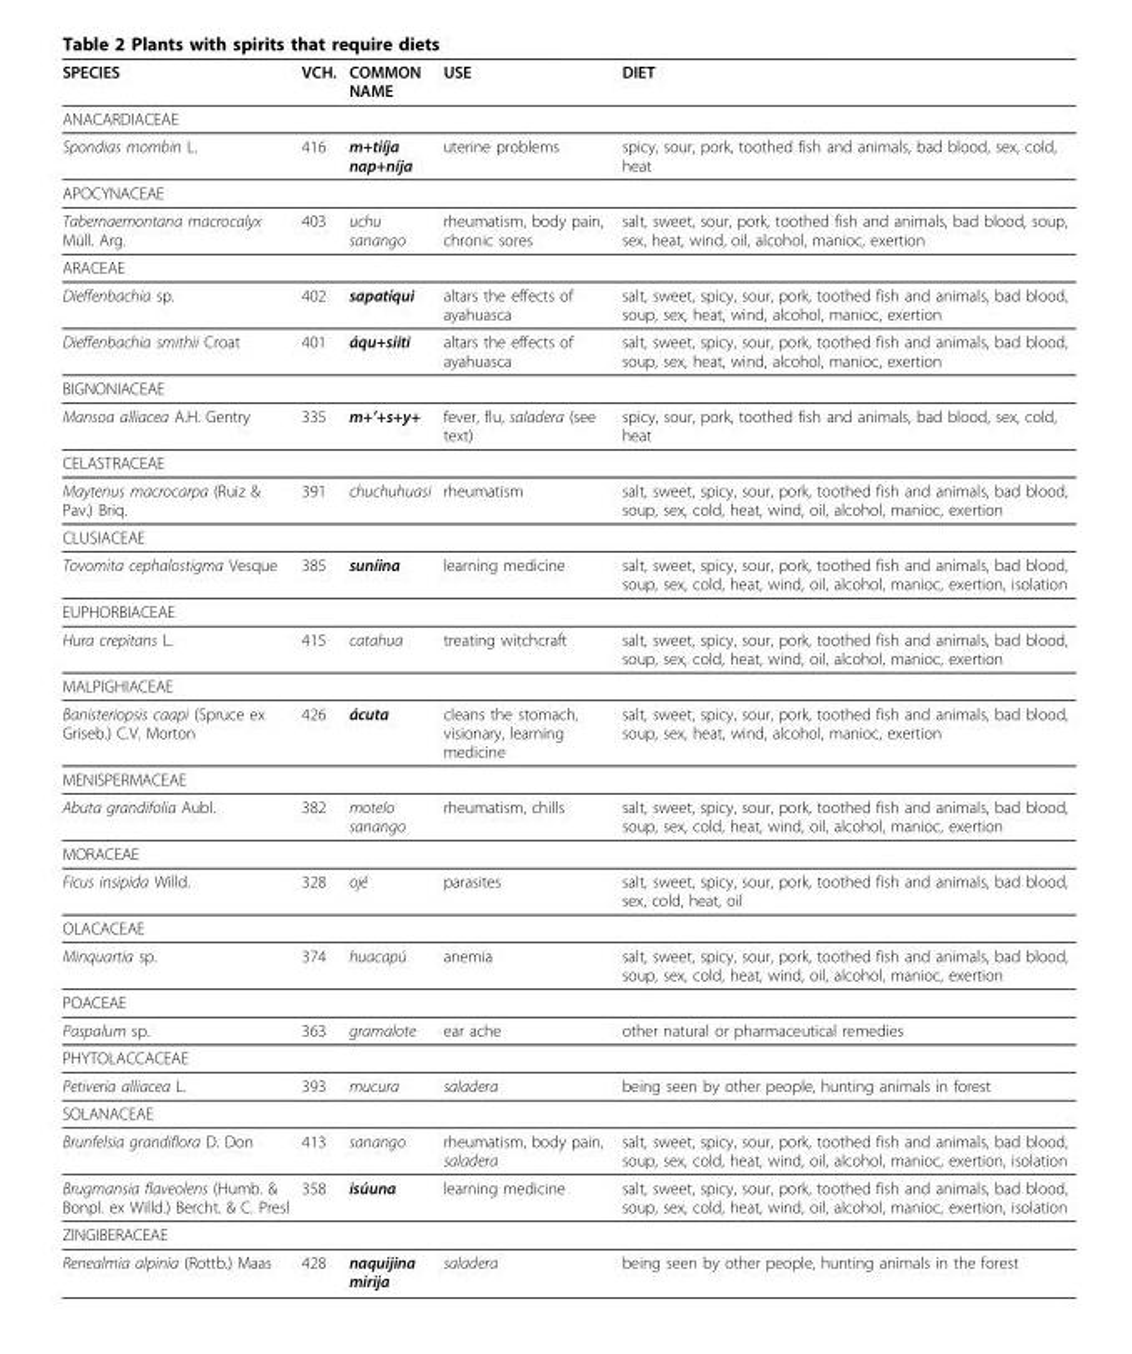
<table><thead><tr><td>SPECIES</td><td>VCH.</td><td>COMMON NAME</td><td>USE</td><td>DIET</td></tr></thead><tbody><tr><td colspan="5">ANACARDIACEAE</td></tr><tr><td>Spondias mombin L.</td><td>416</td><td>m+tiíja nap+níja</td><td>uterine problems</td><td>spicy, sour, pork, toothed fish and animals, bad blood, sex, cold, heat</td></tr><tr><td colspan="5">APOCYNACEAE</td></tr><tr><td>Tabernaemontana macrocalyx Müll. Arg.</td><td>403</td><td>uchu sanango</td><td>rheumatism, body pain, chronic sores</td><td>salt, sweet, sour, pork, toothed fish and animals, bad blood, soup, sex, heat, wind, oil, alcohol, manioc, exertion</td></tr><tr><td colspan="5">ARACEAE</td></tr><tr><td>Dieffenbachia sp.</td><td>402</td><td>sapatíqui</td><td>altars the effects of ayahuasca</td><td>salt, sweet, spicy, sour, pork, toothed fish and animals, bad blood, soup, sex, heat, wind, alcohol, manioc, exertion</td></tr><tr><td>Dieffenbachia smithii Croat</td><td>401</td><td>áqu+siiti</td><td>altars the effects of ayahuasca</td><td>salt, sweet, spicy, sour, pork, toothed fish and animals, bad blood, soup, sex, heat, wind, alcohol, manioc, exertion</td></tr><tr><td colspan="5">BIGNONIACEAE</td></tr><tr><td>Mansoa alliacea A.H. Gentry</td><td>335</td><td>m+’+s+y+</td><td>fever, flu, saladera (see text)</td><td>spicy, sour, pork, toothed fish and animals, bad blood, sex, cold, heat</td></tr><tr><td colspan="5">CELASTRACEAE</td></tr><tr><td>Maytenus macrocarpa (Ruiz &amp; Pav.) Briq.</td><td>391</td><td>chuchuhuasi</td><td>rheumatism</td><td>salt, sweet, spicy, sour, pork, toothed fish and animals, bad blood, soup, sex, cold, heat, wind, oil, alcohol, manioc, exertion</td></tr><tr><td colspan="5">CLUSIACEAE</td></tr><tr><td>Tovomita cephalostigma Vesque</td><td>385</td><td>suníina</td><td>learning medicine</td><td>salt, sweet, spicy, sour, pork, toothed fish and animals, bad blood, soup, sex, cold, heat, wind, oil, alcohol, manioc, exertion, isolation</td></tr><tr><td colspan="5">EUPHORBIACEAE</td></tr><tr><td>Hura crepitans L.</td><td>415</td><td>catahua</td><td>treating witchcraft</td><td>salt, sweet, spicy, sour, pork, toothed fish and animals, bad blood, soup, sex, cold, heat, wind, oil, alcohol, manioc, exertion</td></tr><tr><td colspan="5">MALPIGHIACEAE</td></tr><tr><td>Banisteriopsis caapi (Spruce ex Griseb.) C.V. Morton</td><td>426</td><td>ácuta</td><td>cleans the stomach, visionary, learning medicine</td><td>salt, sweet, spicy, sour, pork, toothed fish and animals, bad blood, soup, sex, heat, wind, alcohol, manioc, exertion</td></tr><tr><td colspan="5">MENISPERMACEAE</td></tr><tr><td>Abuta grandifolia Aubl.</td><td>382</td><td>motelo sanango</td><td>rheumatism, chills</td><td>salt, sweet, spicy, sour, pork, toothed fish and animals, bad blood, soup, sex, cold, heat, wind, oil, alcohol, manioc, exertion</td></tr><tr><td colspan="5">MORACEAE</td></tr><tr><td>Ficus insipida Willd.</td><td>328</td><td>ojé</td><td>parasites</td><td>salt, sweet, spicy, sour, pork, toothed fish and animals, bad blood, sex, cold, heat, oil</td></tr><tr><td colspan="5">OLACACEAE</td></tr><tr><td>Minquartia sp.</td><td>374</td><td>huacapú</td><td>anemia</td><td>salt, sweet, spicy, sour, pork, toothed fish and animals, bad blood, soup, sex, cold, heat, wind, oil, alcohol, manioc, exertion</td></tr><tr><td colspan="5">POACEAE</td></tr><tr><td>Paspalum sp.</td><td>363</td><td>gramalote</td><td>ear ache</td><td>other natural or pharmaceutical remedies</td></tr><tr><td colspan="5">PHYTOLACCACEAE</td></tr><tr><td>Petiveria alliacea L.</td><td>393</td><td>mucura</td><td>saladera</td><td>being seen by other people, hunting animals in forest</td></tr><tr><td colspan="5">SOLANACEAE</td></tr><tr><td>Brunfelsia grandiflora D. Don</td><td>413</td><td>sanango</td><td>rheumatism, body pain, saladera</td><td>salt, sweet, spicy, sour, pork, toothed fish and animals, bad blood, soup, sex, cold, heat, wind, oil, alcohol, manioc, exertion, isolation</td></tr><tr><td>Brugmansia flaveolens (Humb. &amp; Bonpl. ex Willd.) Bercht. &amp; C. Presl</td><td>358</td><td>isúuna</td><td>learning medicine</td><td>salt, sweet, spicy, sour, pork, toothed fish and animals, bad blood, soup, sex, cold, heat, wind, oil, alcohol, manioc, exertion, isolation</td></tr><tr><td colspan="5">ZINGIBERACEAE</td></tr><tr><td>Renealmia alpinia (Rottb.) Maas</td><td>428</td><td>naquijina mirija</td><td>saladera</td><td>being seen by other people, hunting animals in the forest</td></tr></tbody></table>